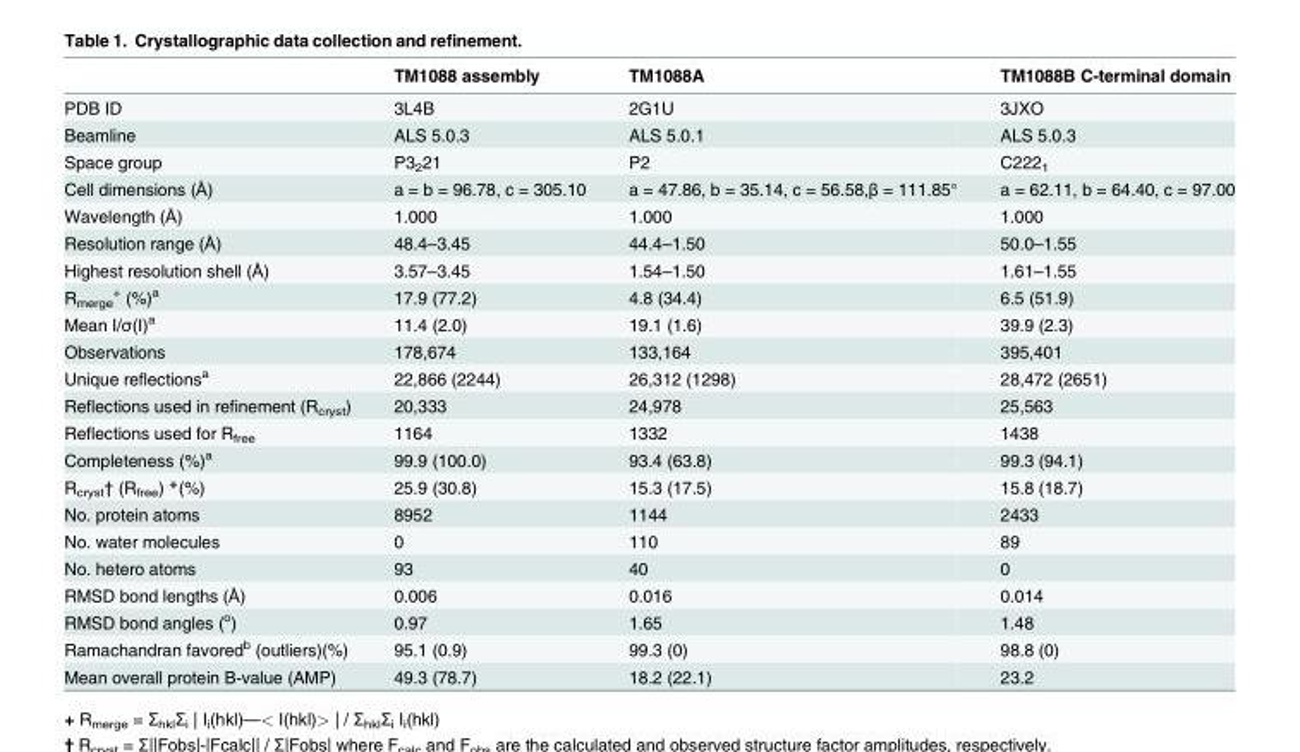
<table><thead><tr><td></td><td>TM1088 assembly</td><td>TM1088A</td><td>TM1088B C-terminal domain</td></tr></thead><tbody><tr><td>PDB ID</td><td>3L4B</td><td>2G1U</td><td>3JXO</td></tr><tr><td>Beamline</td><td>ALS 5.0.3</td><td>ALS 5.0.1</td><td>ALS 5.0.3</td></tr><tr><td>Space group</td><td>P3<sub>2</sub>21</td><td>P2</td><td>C222<sub>1</sub></td></tr><tr><td>Cell dimensions (Å)</td><td>a = b = 96.78, c = 305.10</td><td>a = 47.86, b = 35.14, c = 56.58,β = 111.85°</td><td>a = 62.11, b = 64.40, c = 97.00</td></tr><tr><td>Wavelength (Å)</td><td>1.000</td><td>1.000</td><td>1.000</td></tr><tr><td>Resolution range (Å)</td><td>48.4–3.45</td><td>44.4–1.50</td><td>50.0–1.55</td></tr><tr><td>Highest resolution shell (Å)</td><td>3.57–3.45</td><td>1.54–1.50</td><td>1.61–1.55</td></tr><tr><td>R<sub>merge</sub> <sup>+</sup> (%)<sup>a</sup></td><td>17.9 (77.2)</td><td>4.8 (34.4)</td><td>6.5 (51.9)</td></tr><tr><td>Mean I/σ(I)<sup>a</sup></td><td>11.4 (2.0)</td><td>19.1 (1.6)</td><td>39.9 (2.3)</td></tr><tr><td>Observations</td><td>178,674</td><td>133,164</td><td>395,401</td></tr><tr><td>Unique reflections<sup>a</sup></td><td>22,866 (2244)</td><td>26,312 (1298)</td><td>28,472 (2651)</td></tr><tr><td>Reflections used in refinement (R<sub>cryst</sub>)</td><td>20,333</td><td>24,978</td><td>25,563</td></tr><tr><td>Reflections used for R<sub>free</sub></td><td>1164</td><td>1332</td><td>1438</td></tr><tr><td>Completeness (%)<sup>a</sup></td><td>99.9 (100.0)</td><td>93.4 (63.8)</td><td>99.3 (94.1)</td></tr><tr><td>R<sub>cryst</sub>† (R<sub>free</sub>) *(%)</td><td>25.9 (30.8)</td><td>15.3 (17.5)</td><td>15.8 (18.7)</td></tr><tr><td>No. protein atoms</td><td>8952</td><td>1144</td><td>2433</td></tr><tr><td>No. water molecules</td><td>0</td><td>110</td><td>89</td></tr><tr><td>No. hetero atoms</td><td>93</td><td>40</td><td>0</td></tr><tr><td>RMSD bond lengths (Å)</td><td>0.006</td><td>0.016</td><td>0.014</td></tr><tr><td>RMSD bond angles (<sup>o</sup>)</td><td>0.97</td><td>1.65</td><td>1.48</td></tr><tr><td>Ramachandran favored<sup>b</sup> (outliers)(%)</td><td>95.1 (0.9)</td><td>99.3 (0)</td><td>98.8 (0)</td></tr><tr><td>Mean overall protein B-value (AMP)</td><td>49.3 (78.7)</td><td>18.2 (22.1)</td><td>23.2</td></tr></tbody></table>